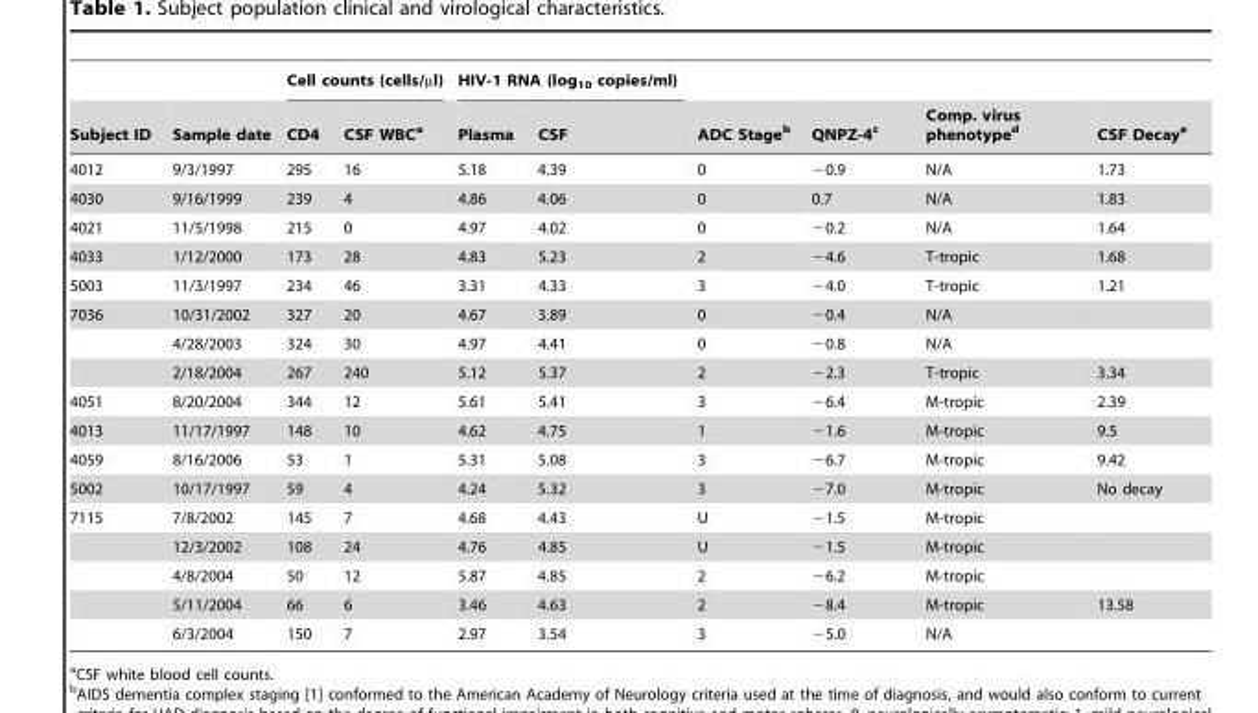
<table><thead><tr><td rowspan="2">Subject ID</td><td rowspan="2">Sample date</td><td colspan="2">Cell counts (cells/µl)</td><td colspan="2">HIV-1 RNA (log<sub>10</sub> copies/ml)</td><td rowspan="2">ADC Stage<sup>b</sup></td><td rowspan="2">QNPZ-4<sup>c</sup></td><td rowspan="2">Comp. virus phenotype<sup>d</sup></td><td rowspan="2">CSF Decay<sup>e</sup></td></tr><tr><td>CD4</td><td>CSF WBC<sup>a</sup></td><td>Plasma</td><td>CSF</td></tr></thead><tbody><tr><td>4012</td><td>9/3/1997</td><td>295</td><td>16</td><td>5.18</td><td>4.39</td><td>0</td><td>−0.9</td><td>N/A</td><td>1.73</td></tr><tr><td>4030</td><td>9/16/1999</td><td>239</td><td>4</td><td>4.86</td><td>4.06</td><td>0</td><td>0.7</td><td>N/A</td><td>1.83</td></tr><tr><td>4021</td><td>11/5/1998</td><td>215</td><td>0</td><td>4.97</td><td>4.02</td><td>0</td><td>−0.2</td><td>N/A</td><td>1.64</td></tr><tr><td>4033</td><td>1/12/2000</td><td>173</td><td>28</td><td>4.83</td><td>5.23</td><td>2</td><td>−4.6</td><td>T-tropic</td><td>1.68</td></tr><tr><td>5003</td><td>11/3/1997</td><td>234</td><td>46</td><td>3.31</td><td>4.33</td><td>3</td><td>−4.0</td><td>T-tropic</td><td>1.21</td></tr><tr><td rowspan="3">7036</td><td>10/31/2002</td><td>327</td><td>20</td><td>4.67</td><td>3.89</td><td>0</td><td>−0.4</td><td>N/A</td><td></td></tr><tr><td>4/28/2003</td><td>324</td><td>30</td><td>4.97</td><td>4.41</td><td>0</td><td>−0.8</td><td>N/A</td><td></td></tr><tr><td>2/18/2004</td><td>267</td><td>240</td><td>5.12</td><td>5.37</td><td>2</td><td>−2.3</td><td>T-tropic</td><td>3.34</td></tr><tr><td>4051</td><td>8/20/2004</td><td>344</td><td>12</td><td>5.61</td><td>5.41</td><td>3</td><td>−6.4</td><td>M-tropic</td><td>2.39</td></tr><tr><td>4013</td><td>11/17/1997</td><td>148</td><td>10</td><td>4.62</td><td>4.75</td><td>1</td><td>−1.6</td><td>M-tropic</td><td>9.5</td></tr><tr><td>4059</td><td>8/16/2006</td><td>53</td><td>1</td><td>5.31</td><td>5.08</td><td>3</td><td>−6.7</td><td>M-tropic</td><td>9.42</td></tr><tr><td>5002</td><td>10/17/1997</td><td>59</td><td>4</td><td>4.24</td><td>5.32</td><td>3</td><td>−7.0</td><td>M-tropic</td><td>No decay</td></tr><tr><td rowspan="5">7115</td><td>7/8/2002</td><td>145</td><td>7</td><td>4.68</td><td>4.43</td><td>U</td><td>−1.5</td><td>M-tropic</td><td></td></tr><tr><td>12/3/2002</td><td>108</td><td>24</td><td>4.76</td><td>4.85</td><td>U</td><td>−1.5</td><td>M-tropic</td><td></td></tr><tr><td>4/8/2004</td><td>50</td><td>12</td><td>5.87</td><td>4.85</td><td>2</td><td>−6.2</td><td>M-tropic</td><td></td></tr><tr><td>5/11/2004</td><td>66</td><td>6</td><td>3.46</td><td>4.63</td><td>2</td><td>−8.4</td><td>M-tropic</td><td>13.58</td></tr><tr><td>6/3/2004</td><td>150</td><td>7</td><td>2.97</td><td>3.54</td><td>3</td><td>−5.0</td><td>N/A</td><td></td></tr></tbody></table>